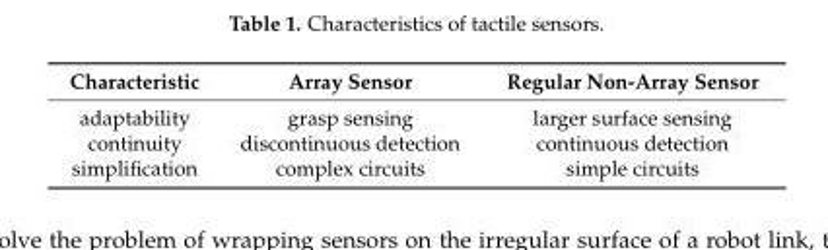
<table><thead><tr><td>Characteristic</td><td>Array Sensor</td><td>Regular Non-Array Sensor</td></tr></thead><tbody><tr><td>adaptability</td><td>grasp sensing</td><td>larger surface sensing</td></tr><tr><td>continuity</td><td>discontinuous detection</td><td>continuous detection</td></tr><tr><td>simplification</td><td>complex circuits</td><td>simple circuits</td></tr></tbody></table>